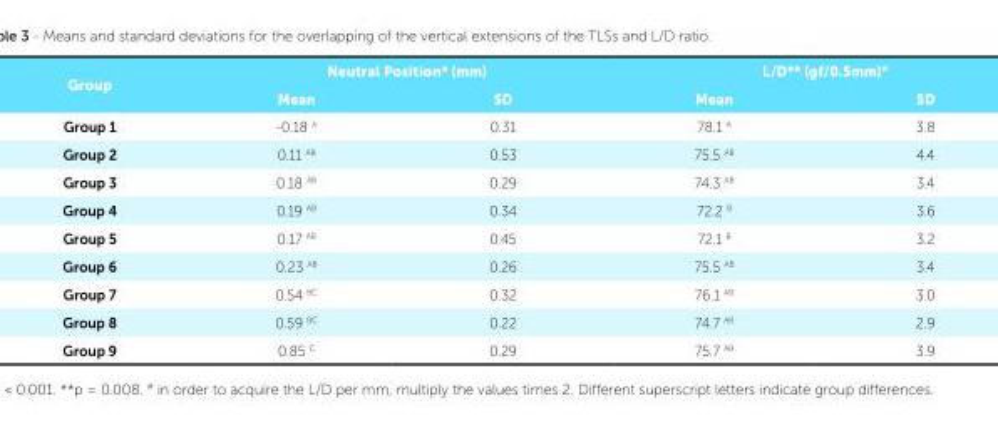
<table><tbody><tr><td rowspan="2">Group</td><td colspan="2">Neutral Position* (mm)</td><td colspan="2">L/D** (gf/0.5mm)<sup>#</sup></td></tr><tr><td>Mean</td><td>SD</td><td>Mean</td><td>SD</td></tr><tr><td>Group 1</td><td>-0.18 A</td><td>0.31</td><td>78.1 A</td><td>3.8</td></tr><tr><td>Group 2</td><td>0.11 AB</td><td>0.53</td><td>75.5 AB</td><td>4.4</td></tr><tr><td>Group 3</td><td>0.18 AB</td><td>0.29</td><td>74.3 AB</td><td>3.4</td></tr><tr><td>Group 4</td><td>0.19 AB</td><td>0.34</td><td>72.2 <sup>B</sup></td><td>3.6</td></tr><tr><td>Group 5</td><td>0.17 AB</td><td>0.45</td><td>72.1 <sup>B</sup></td><td>3.2</td></tr><tr><td>Group 6</td><td>0.23 AB</td><td>0.26</td><td>75.5 AB</td><td>3.4</td></tr><tr><td>Group 7</td><td>0.54 <sup>BC</sup></td><td>0.32</td><td>76.1 AB</td><td>3.0</td></tr><tr><td>Group 8</td><td>0.59 <sup>BC</sup></td><td>0.22</td><td>74.7 AB</td><td>2.9</td></tr><tr><td>Group 9</td><td>0.85 <sup>C</sup></td><td>0.29</td><td>75.7 AB</td><td>3.9</td></tr></tbody></table>